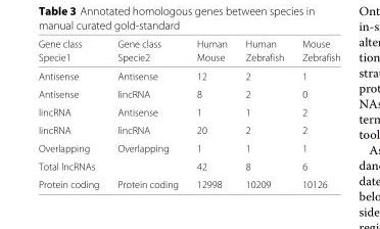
<table><thead><tr><td rowspan="2">Gene class Specie1</td><td rowspan="2">Gene class Specie2</td><td rowspan="2">Human Mouse</td><td rowspan="2">Human Zebrafish</td><td rowspan="2">Mouse Zebrafish</td></tr><tr></tr></thead><tbody><tr><td>Antisense</td><td>Antisense</td><td>12</td><td>2</td><td>1</td></tr><tr><td>Antisense</td><td>lincRNA</td><td>8</td><td>2</td><td>0</td></tr><tr><td>lincRNA</td><td>Antisense</td><td>1</td><td>1</td><td>2</td></tr><tr><td>lincRNA</td><td>lincRNA</td><td>20</td><td>2</td><td>2</td></tr><tr><td>Overlapping</td><td>Overlapping</td><td>1</td><td>1</td><td>1</td></tr><tr><td>Total lncRNAs</td><td></td><td>42</td><td>8</td><td>6</td></tr><tr><td>Protein coding</td><td>Protein coding</td><td>12998</td><td>10209</td><td>10126</td></tr></tbody></table>